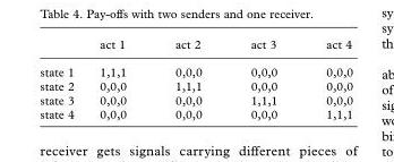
<table><thead><tr><td></td><td>act 1</td><td>act 2</td><td>act 3</td><td>act 4</td></tr></thead><tbody><tr><td>state 1</td><td>1,1,1</td><td>0,0,0</td><td>0,0,0</td><td>0,0,0</td></tr><tr><td>state 2</td><td>0,0,0</td><td>1,1,1</td><td>0,0,0</td><td>0,0,0</td></tr><tr><td>state 3</td><td>0,0,0</td><td>0,0,0</td><td>1,1,1</td><td>0,0,0</td></tr><tr><td>state 4</td><td>0,0,0</td><td>0,0,0</td><td>0,0,0</td><td>1,1,1</td></tr></tbody></table>